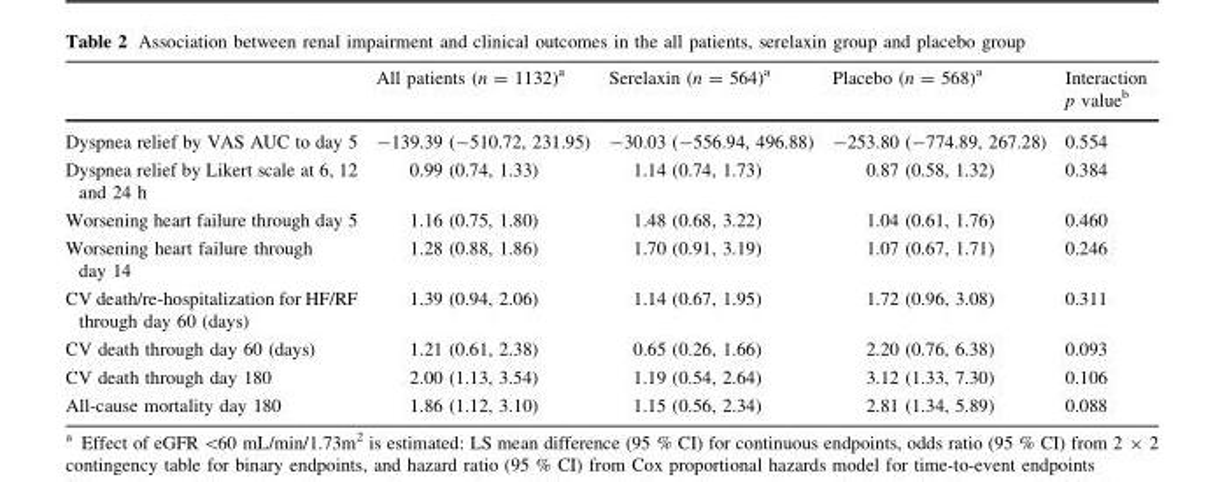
<table><thead><tr><td></td><td>All patients (n = 1132)<sup>a</sup></td><td>Serelaxin (n = 564)<sup>a</sup></td><td>Placebo (n = 568)<sup>a</sup></td><td>Interaction p value<sup>b</sup></td></tr></thead><tbody><tr><td>Dyspnea relief by VAS AUC to day 5</td><td>-139.39 (-510.72, 231.95)</td><td>-30.03 (-556.94, 496.88)</td><td>-253.80 (-774.89, 267.28)</td><td>0.554</td></tr><tr><td>Dyspnea relief by Likert scale at 6, 12 and 24 h</td><td>0.99 (0.74, 1.33)</td><td>1.14 (0.74, 1.73)</td><td>0.87 (0.58, 1.32)</td><td>0.384</td></tr><tr><td>Worsening heart failure through day 5</td><td>1.16 (0.75, 1.80)</td><td>1.48 (0.68, 3.22)</td><td>1.04 (0.61, 1.76)</td><td>0.460</td></tr><tr><td>Worsening heart failure through day 14</td><td>1.28 (0.88, 1.86)</td><td>1.70 (0.91, 3.19)</td><td>1.07 (0.67, 1.71)</td><td>0.246</td></tr><tr><td>CV death/re-hospitalization for HF/RF through day 60 (days)</td><td>1.39 (0.94, 2.06)</td><td>1.14 (0.67, 1.95)</td><td>1.72 (0.96, 3.08)</td><td>0.311</td></tr><tr><td>CV death through day 60 (days)</td><td>1.21 (0.61, 2.38)</td><td>0.65 (0.26, 1.66)</td><td>2.20 (0.76, 6.38)</td><td>0.093</td></tr><tr><td>CV death through day 180</td><td>2.00 (1.13, 3.54)</td><td>1.19 (0.54, 2.64)</td><td>3.12 (1.33, 7.30)</td><td>0.106</td></tr><tr><td>All-cause mortality day 180</td><td>1.86 (1.12, 3.10)</td><td>1.15 (0.56, 2.34)</td><td>2.81 (1.34, 5.89)</td><td>0.088</td></tr></tbody></table>